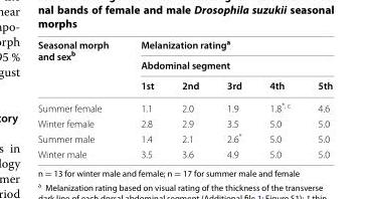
<table><thead><tr><td rowspan="3">Seasonal morph and sex<sup>b</sup></td><td rowspan="2" colspan="5">Melanization rating<sup>a</sup> Abdominal segment</td></tr><tr></tr><tr><td>1st</td><td>2nd</td><td>3rd</td><td>4th</td><td>5th</td></tr></thead><tbody><tr><td>Summer female</td><td>1.1</td><td>2.0</td><td>1.9</td><td>1.8<sup>*, c</sup></td><td>4.6</td></tr><tr><td>Winter female</td><td>2.8</td><td>2.9</td><td>3.5</td><td>5.0</td><td>5.0</td></tr><tr><td>Summer male</td><td>1.4</td><td>2.1</td><td>2.6*</td><td>5.0</td><td>5.0</td></tr><tr><td>Winter male</td><td>3.5</td><td>3.6</td><td>4.9</td><td>5.0</td><td>5.0</td></tr></tbody></table>